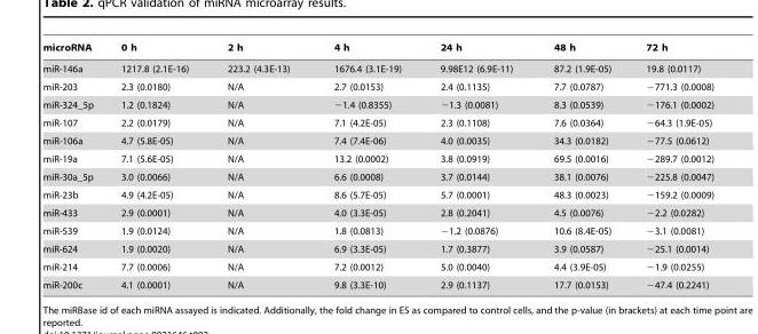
<table><thead><tr><td>microRNA</td><td>0 h</td><td>2 h</td><td>4 h</td><td>24 h</td><td>48 h</td><td>72 h</td></tr></thead><tbody><tr><td>miR-146a</td><td>1217.8 (2.1E-16)</td><td>223.2 (4.3E-13)</td><td>1676.4 (3.1E-19)</td><td>9.98E12 (6.9E-11)</td><td>87.2 (1.9E-05)</td><td>19.8 (0.0117)</td></tr><tr><td>miR-203</td><td>2.3 (0.0180)</td><td>N/A</td><td>2.7 (0.0153)</td><td>2.4 (0.1135)</td><td>7.7 (0.0787)</td><td>−771.3 (0.0008)</td></tr><tr><td>miR-324_5p</td><td>1.2 (0.1824)</td><td>N/A</td><td>−1.4 (0.8355)</td><td>−1.3 (0.0081)</td><td>8.3 (0.0539)</td><td>−176.1 (0.0002)</td></tr><tr><td>miR-107</td><td>2.2 (0.0179)</td><td>N/A</td><td>7.1 (4.2E-05)</td><td>2.3 (0.1108)</td><td>7.6 (0.0364)</td><td>−64.3 (1.9E-05)</td></tr><tr><td>miR-106a</td><td>4.7 (5.8E-05)</td><td>N/A</td><td>7.4 (7.4E-06)</td><td>4.0 (0.0035)</td><td>34.3 (0.0182)</td><td>−77.5 (0.0612)</td></tr><tr><td>miR-19a</td><td>7.1 (5.6E-05)</td><td>N/A</td><td>13.2 (0.0002)</td><td>3.8 (0.0919)</td><td>69.5 (0.0016)</td><td>−289.7 (0.0012)</td></tr><tr><td>miR-30a_5p</td><td>3.0 (0.0066)</td><td>N/A</td><td>6.6 (0.0008)</td><td>3.7 (0.0144)</td><td>38.1 (0.0076)</td><td>−225.8 (0.0047)</td></tr><tr><td>miR-23b</td><td>4.9 (4.2E-05)</td><td>N/A</td><td>8.6 (5.7E-05)</td><td>5.7 (0.0001)</td><td>48.3 (0.0023)</td><td>−159.2 (0.0009)</td></tr><tr><td>miR-433</td><td>2.9 (0.0001)</td><td>N/A</td><td>4.0 (3.3E-05)</td><td>2.8 (0.2041)</td><td>4.5 (0.0076)</td><td>−2.2 (0.0282)</td></tr><tr><td>miR-539</td><td>1.9 (0.0124)</td><td>N/A</td><td>1.8 (0.0813)</td><td>−1.2 (0.0876)</td><td>10.6 (8.4E-05)</td><td>−3.1 (0.0081)</td></tr><tr><td>miR-624</td><td>1.9 (0.0020)</td><td>N/A</td><td>6.9 (3.3E-05)</td><td>1.7 (0.3877)</td><td>3.9 (0.0587)</td><td>−25.1 (0.0014)</td></tr><tr><td>miR-214</td><td>7.7 (0.0006)</td><td>N/A</td><td>7.2 (0.0012)</td><td>5.0 (0.0040)</td><td>4.4 (3.9E-05)</td><td>−1.9 (0.0255)</td></tr><tr><td>miR-200c</td><td>4.1 (0.0001)</td><td>N/A</td><td>9.8 (3.3E-10)</td><td>2.9 (0.1137)</td><td>17.7 (0.0153)</td><td>−47.4 (0.2241)</td></tr></tbody></table>